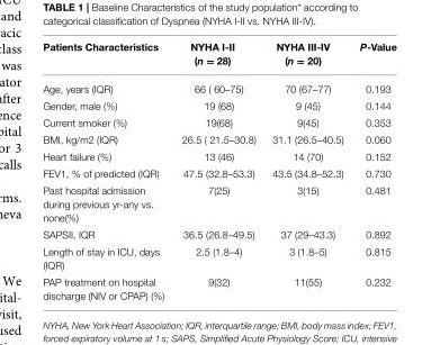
<table><thead><tr><td>Patients Characteristics</td><td>NYHA I-II (n = 28)</td><td>NYHA III-IV (n = 20)</td><td>P-Value</td></tr></thead><tbody><tr><td>Age, years (IQR)</td><td>66 ( 60–75)</td><td>70 (67–77)</td><td>0.193</td></tr><tr><td>Gender, male (%)</td><td>19 (68)</td><td>9 (45)</td><td>0.144</td></tr><tr><td>Current smoker (%)</td><td>19(68)</td><td>9(45)</td><td>0.353</td></tr><tr><td>BMI, kg/m2 (IQR)</td><td>26.5 ( 21.5–30.8)</td><td>31.1 (26.5–40.5)</td><td>0.060</td></tr><tr><td>Heart failure (%)</td><td>13 (46)</td><td>14 (70)</td><td>0.152</td></tr><tr><td>FEV1, % of predicted (IQR)</td><td>47.5 (32.8–53.3)</td><td>43.5 (34.8–52.3)</td><td>0.730</td></tr><tr><td>Past hospital admission during previous yr-any vs. none(%)</td><td>7(25)</td><td>3(15)</td><td>0.481</td></tr><tr><td>SAPSII, IQR</td><td>36.5 (26.8–49.5)</td><td>37 (29–43.3)</td><td>0.892</td></tr><tr><td>Length of stay in ICU, days (IQR)</td><td>2.5 (1.8–4)</td><td>3 (1.8–5)</td><td>0.815</td></tr><tr><td>PAP treatment on hospital discharge (NIV or CPAP) (%)</td><td>9(32)</td><td>11(55)</td><td>0.232</td></tr></tbody></table>